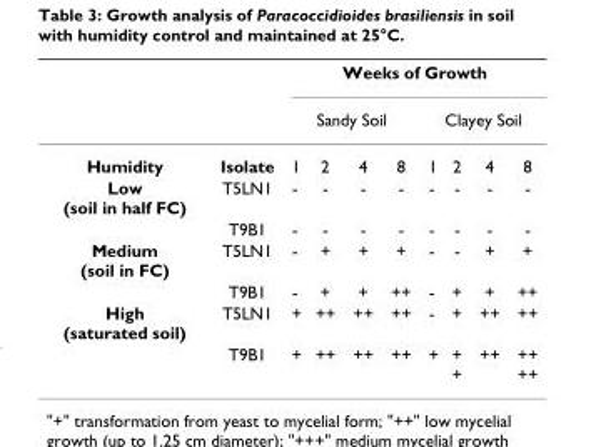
<table><thead><tr><td rowspan="3">Humidity</td><td rowspan="3">Isolate</td><td colspan="8">Weeks of Growth</td></tr><tr><td colspan="4">Sandy Soil</td><td colspan="4">Clayey Soil</td></tr><tr><td>1</td><td>2</td><td>4</td><td>8</td><td>1</td><td>2</td><td>4</td><td>8</td></tr></thead><tbody><tr><td rowspan="2">Low (soil in half FC)</td><td>T5LN1</td><td>-</td><td>-</td><td>-</td><td>-</td><td>-</td><td>-</td><td>-</td><td>-</td></tr><tr><td>T9B1</td><td>-</td><td>-</td><td>-</td><td>-</td><td>-</td><td>-</td><td>-</td><td>-</td></tr><tr><td rowspan="2">Medium (soil in FC)</td><td>T5LN1</td><td>-</td><td>+</td><td>+</td><td>+</td><td>-</td><td>-</td><td>+</td><td>+</td></tr><tr><td>T9B1</td><td>-</td><td>+</td><td>+</td><td>++</td><td>-</td><td>+</td><td>+</td><td>++</td></tr><tr><td rowspan="2">High (saturated soil)</td><td>T5LN1</td><td>+</td><td>++</td><td>++</td><td>++</td><td>-</td><td>+</td><td>++</td><td>++</td></tr><tr><td>T9B1</td><td>+</td><td>++</td><td>++</td><td>++</td><td>+</td><td>+ +</td><td>++</td><td>++ ++</td></tr></tbody></table>